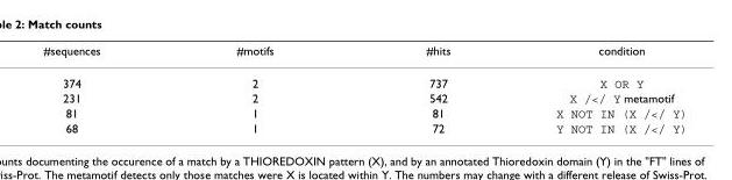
<table><thead><tr><td>#sequences</td><td>#motifs</td><td>#hits</td><td>condition</td></tr></thead><tbody><tr><td>374</td><td>2</td><td>737</td><td>X OR Y</td></tr><tr><td>231</td><td>2</td><td>542</td><td>X /&lt;/ Y metamotif</td></tr><tr><td>81</td><td>1</td><td>81</td><td>X NOT IN (X /&lt;/ Y)</td></tr><tr><td>68</td><td>1</td><td>72</td><td>Y NOT IN (X /&lt;/ Y)</td></tr></tbody></table>